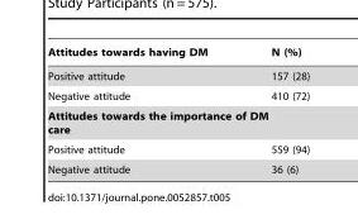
<table><thead><tr><td>Attitudes towards having DM</td><td>N (%)</td></tr></thead><tbody><tr><td>Positive attitude</td><td>157 (28)</td></tr><tr><td>Negative attitude</td><td>410 (72)</td></tr><tr><td colspan="2">Attitudes towards the importance of DM care</td></tr><tr><td>Positive attitude</td><td>559 (94)</td></tr><tr><td>Negative attitude</td><td>36 (6)</td></tr></tbody></table>